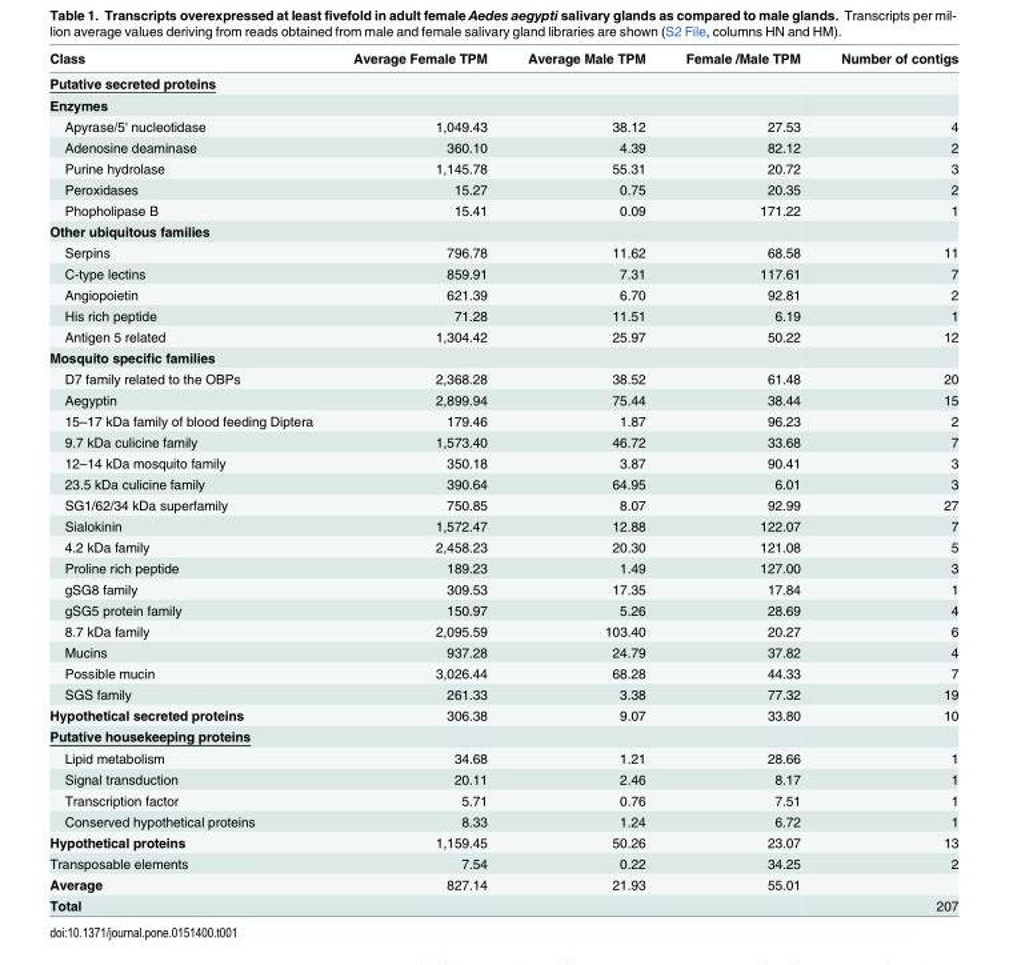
<table><thead><tr><td>Class</td><td>Average Female TPM</td><td>Average Male TPM</td><td>Female /Male TPM</td><td>Number of contigs</td></tr></thead><tbody><tr><td colspan="5">Putative secreted proteins</td></tr><tr><td colspan="5">Enzymes</td></tr><tr><td>Apyrase/5&#x27; nucleotidase</td><td>1,049.43</td><td>38.12</td><td>27.53</td><td>4</td></tr><tr><td>Adenosine deaminase</td><td>360.10</td><td>4.39</td><td>82.12</td><td>2</td></tr><tr><td>Purine hydrolase</td><td>1,145.78</td><td>55.31</td><td>20.72</td><td>3</td></tr><tr><td>Peroxidases</td><td>15.27</td><td>0.75</td><td>20.35</td><td>2</td></tr><tr><td>Phopholipase B</td><td>15.41</td><td>0.09</td><td>171.22</td><td>1</td></tr><tr><td colspan="5">Other ubiquitous families</td></tr><tr><td>Serpins</td><td>796.78</td><td>11.62</td><td>68.58</td><td>11</td></tr><tr><td>C-type lectins</td><td>859.91</td><td>7.31</td><td>117.61</td><td>7</td></tr><tr><td>Angiopoietin</td><td>621.39</td><td>6.70</td><td>92.81</td><td>2</td></tr><tr><td>His rich peptide</td><td>71.28</td><td>11.51</td><td>6.19</td><td>1</td></tr><tr><td>Antigen 5 related</td><td>1,304.42</td><td>25.97</td><td>50.22</td><td>12</td></tr><tr><td colspan="5">Mosquito specific families</td></tr><tr><td>D7 family related to the OBPs</td><td>2,368.28</td><td>38.52</td><td>61.48</td><td>20</td></tr><tr><td>Aegyptin</td><td>2,899.94</td><td>75.44</td><td>38.44</td><td>15</td></tr><tr><td>15–17 kDa family of blood feeding Diptera</td><td>179.46</td><td>1.87</td><td>96.23</td><td>2</td></tr><tr><td>9.7 kDa culicine family</td><td>1,573.40</td><td>46.72</td><td>33.68</td><td>7</td></tr><tr><td>12–14 kDa mosquito family</td><td>350.18</td><td>3.87</td><td>90.41</td><td>3</td></tr><tr><td>23.5 kDa culicine family</td><td>390.64</td><td>64.95</td><td>6.01</td><td>3</td></tr><tr><td>SG1/62/34 kDa superfamily</td><td>750.85</td><td>8.07</td><td>92.99</td><td>27</td></tr><tr><td>Sialokinin</td><td>1,572.47</td><td>12.88</td><td>122.07</td><td>7</td></tr><tr><td>4.2 kDa family</td><td>2,458.23</td><td>20.30</td><td>121.08</td><td>5</td></tr><tr><td>Proline rich peptide</td><td>189.23</td><td>1.49</td><td>127.00</td><td>3</td></tr><tr><td>gSG8 family</td><td>309.53</td><td>17.35</td><td>17.84</td><td>1</td></tr><tr><td>gSG5 protein family</td><td>150.97</td><td>5.26</td><td>28.69</td><td>4</td></tr><tr><td>8.7 kDa family</td><td>2,095.59</td><td>103.40</td><td>20.27</td><td>6</td></tr><tr><td>Mucins</td><td>937.28</td><td>24.79</td><td>37.82</td><td>4</td></tr><tr><td>Possible mucin</td><td>3,026.44</td><td>68.28</td><td>44.33</td><td>7</td></tr><tr><td>SGS family</td><td>261.33</td><td>3.38</td><td>77.32</td><td>19</td></tr><tr><td>Hypothetical secreted proteins</td><td>306.38</td><td>9.07</td><td>33.80</td><td>10</td></tr><tr><td colspan="5">Putative housekeeping proteins</td></tr><tr><td>Lipid metabolism</td><td>34.68</td><td>1.21</td><td>28.66</td><td>1</td></tr><tr><td>Signal transduction</td><td>20.11</td><td>2.46</td><td>8.17</td><td>1</td></tr><tr><td>Transcription factor</td><td>5.71</td><td>0.76</td><td>7.51</td><td>1</td></tr><tr><td>Conserved hypothetical proteins</td><td>8.33</td><td>1.24</td><td>6.72</td><td>1</td></tr><tr><td>Hypothetical proteins</td><td>1,159.45</td><td>50.26</td><td>23.07</td><td>13</td></tr><tr><td>Transposable elements</td><td>7.54</td><td>0.22</td><td>34.25</td><td>2</td></tr><tr><td>Average</td><td>827.14</td><td>21.93</td><td>55.01</td><td></td></tr><tr><td>Total</td><td></td><td></td><td></td><td>207</td></tr></tbody></table>